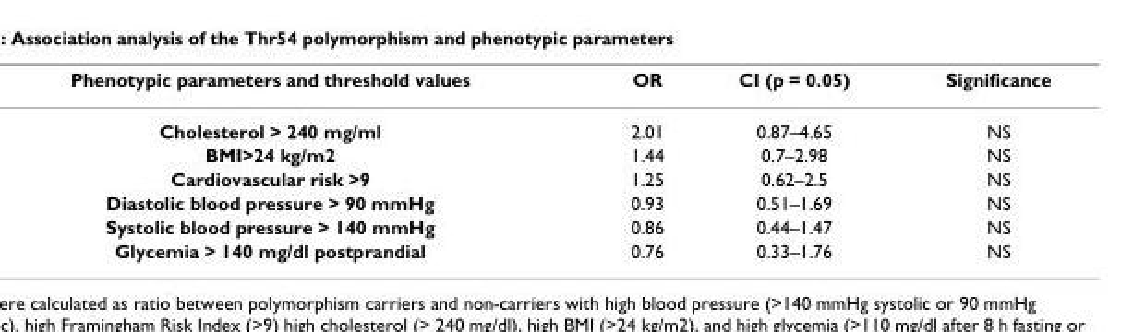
<table><thead><tr><td>Phenotypic parameters and threshold values</td><td>OR</td><td>CI (p = 0.05)</td><td>Significance</td></tr></thead><tbody><tr><td>Cholesterol &gt; 240 mg/ml</td><td>2.01</td><td>0.87–4.65</td><td>NS</td></tr><tr><td>BMI&gt;24 kg/m2</td><td>1.44</td><td>0.7–2.98</td><td>NS</td></tr><tr><td>Cardiovascular risk &gt;9</td><td>1.25</td><td>0.62–2.5</td><td>NS</td></tr><tr><td>Diastolic blood pressure &gt; 90 mmHg</td><td>0.93</td><td>0.51–1.69</td><td>NS</td></tr><tr><td>Systolic blood pressure &gt; 140 mmHg</td><td>0.86</td><td>0.44–1.47</td><td>NS</td></tr><tr><td>Glycemia &gt; 140 mg/dl postprandial</td><td>0.76</td><td>0.33–1.76</td><td>NS</td></tr></tbody></table>